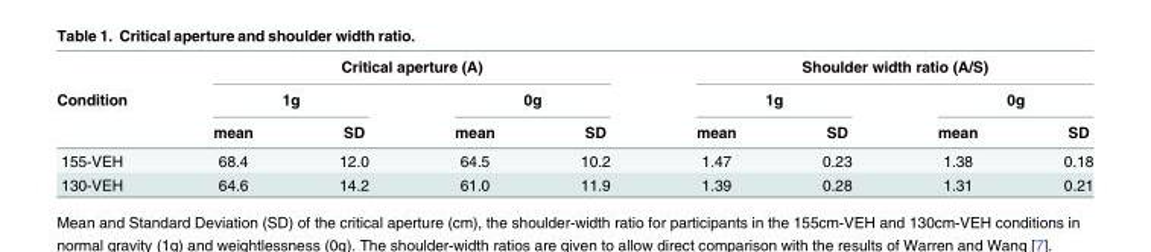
<table><thead><tr><td rowspan="3">Condition</td><td colspan="4">Critical aperture (A)</td><td colspan="4">Shoulder width ratio (A/S)</td></tr><tr><td colspan="2">1g</td><td colspan="2">0g</td><td colspan="2">1g</td><td colspan="2">0g</td></tr><tr><td>mean</td><td>SD</td><td>mean</td><td>SD</td><td>mean</td><td>SD</td><td>mean</td><td>SD</td></tr></thead><tbody><tr><td>155-VEH</td><td>68.4</td><td>12.0</td><td>64.5</td><td>10.2</td><td>1.47</td><td>0.23</td><td>1.38</td><td>0.18</td></tr><tr><td>130-VEH</td><td>64.6</td><td>14.2</td><td>61.0</td><td>11.9</td><td>1.39</td><td>0.28</td><td>1.31</td><td>0.21</td></tr></tbody></table>